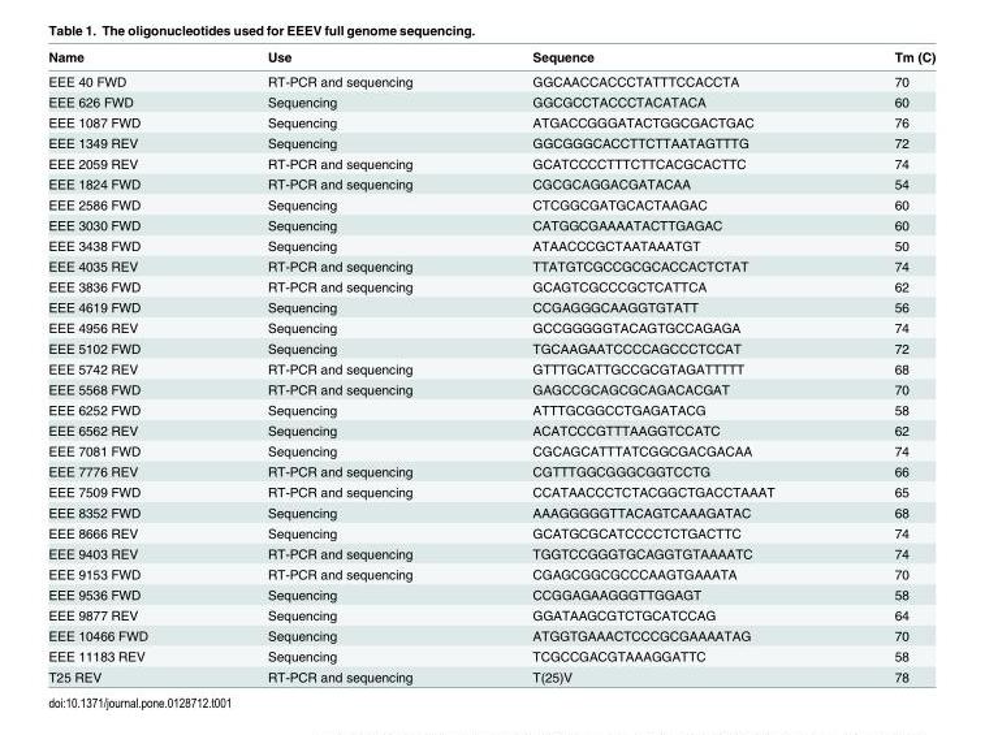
<table><thead><tr><td>Name</td><td>Use</td><td>Sequence</td><td>Tm (C)</td></tr></thead><tbody><tr><td>EEE 40 FWD</td><td>RT-PCR and sequencing</td><td>GGCAACCACCCTATTTCCACCTA</td><td>70</td></tr><tr><td>EEE 626 FWD</td><td>Sequencing</td><td>GGCGCCTACCCTACATACA</td><td>60</td></tr><tr><td>EEE 1087 FWD</td><td>Sequencing</td><td>ATGACCGGGATACTGGCGACTGAC</td><td>76</td></tr><tr><td>EEE 1349 REV</td><td>Sequencing</td><td>GGCGGGCACCTTCTTAATAGTTTG</td><td>72</td></tr><tr><td>EEE 2059 REV</td><td>RT-PCR and sequencing</td><td>GCATCCCCTTTCTTCACGCACTTC</td><td>74</td></tr><tr><td>EEE 1824 FWD</td><td>RT-PCR and sequencing</td><td>CGCGCAGGACGATACAA</td><td>54</td></tr><tr><td>EEE 2586 FWD</td><td>Sequencing</td><td>CTCGGCGATGCACTAAGAC</td><td>60</td></tr><tr><td>EEE 3030 FWD</td><td>Sequencing</td><td>CATGGCGAAAATACTTGAGAC</td><td>60</td></tr><tr><td>EEE 3438 FWD</td><td>Sequencing</td><td>ATAACCCGCTAATAAATGT</td><td>50</td></tr><tr><td>EEE 4035 REV</td><td>RT-PCR and sequencing</td><td>TTATGTCGCCGCGCACCACTCTAT</td><td>74</td></tr><tr><td>EEE 3836 FWD</td><td>RT-PCR and sequencing</td><td>GCAGTCGCCCGCTCATTCA</td><td>62</td></tr><tr><td>EEE 4619 FWD</td><td>Sequencing</td><td>CCGAGGGCAAGGTGTATT</td><td>56</td></tr><tr><td>EEE 4956 REV</td><td>Sequencing</td><td>GCCGGGGGTACAGTGCCAGAGA</td><td>74</td></tr><tr><td>EEE 5102 FWD</td><td>Sequencing</td><td>TGCAAGAATCCCCAGCCCTCCAT</td><td>72</td></tr><tr><td>EEE 5742 REV</td><td>RT-PCR and sequencing</td><td>GTTTGCATTGCCGCGTAGATTTTT</td><td>68</td></tr><tr><td>EEE 5568 FWD</td><td>RT-PCR and sequencing</td><td>GAGCCGCAGCGCAGACACGAT</td><td>70</td></tr><tr><td>EEE 6252 FWD</td><td>Sequencing</td><td>ATTTGCGGCCTGAGATACG</td><td>58</td></tr><tr><td>EEE 6562 REV</td><td>Sequencing</td><td>ACATCCCGTTTAAGGTCCATC</td><td>62</td></tr><tr><td>EEE 7081 FWD</td><td>Sequencing</td><td>CGCAGCATTTATCGGCGACGACAA</td><td>74</td></tr><tr><td>EEE 7776 REV</td><td>RT-PCR and sequencing</td><td>CGTTTGGCGGGCGGTCCTG</td><td>66</td></tr><tr><td>EEE 7509 FWD</td><td>RT-PCR and sequencing</td><td>CCATAACCCTCTACGGCTGACCTAAAT</td><td>65</td></tr><tr><td>EEE 8352 FWD</td><td>Sequencing</td><td>AAAGGGGGTTACAGTCAAAGATAC</td><td>68</td></tr><tr><td>EEE 8666 REV</td><td>Sequencing</td><td>GCATGCGCATCCCCTCTGACTTC</td><td>74</td></tr><tr><td>EEE 9403 REV</td><td>RT-PCR and sequencing</td><td>TGGTCCGGGTGCAGGTGTAAAATC</td><td>74</td></tr><tr><td>EEE 9153 FWD</td><td>RT-PCR and sequencing</td><td>CGAGCGGCGCCCAAGTGAAATA</td><td>70</td></tr><tr><td>EEE 9536 FWD</td><td>Sequencing</td><td>CCGGAGAAGGGTTGGAGT</td><td>58</td></tr><tr><td>EEE 9877 REV</td><td>Sequencing</td><td>GGATAAGCGTCTGCATCCAG</td><td>64</td></tr><tr><td>EEE 10466 FWD</td><td>Sequencing</td><td>ATGGTGAAACTCCCGCGAAAATAG</td><td>70</td></tr><tr><td>EEE 11183 REV</td><td>Sequencing</td><td>TCGCCGACGTAAAGGATTC</td><td>58</td></tr><tr><td>T25 REV</td><td>RT-PCR and sequencing</td><td>T(25)V</td><td>78</td></tr></tbody></table>